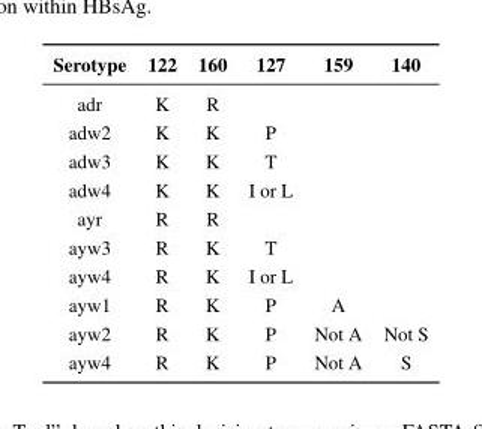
<table><thead><tr><td>Serotype</td><td>122</td><td>160</td><td>127</td><td>159</td><td>140</td></tr></thead><tbody><tr><td>adr</td><td>K</td><td>R</td><td></td><td></td><td></td></tr><tr><td>adw2</td><td>K</td><td>K</td><td>P</td><td></td><td></td></tr><tr><td>adw3</td><td>K</td><td>K</td><td>T</td><td></td><td></td></tr><tr><td>adw4</td><td>K</td><td>K</td><td>I or L</td><td></td><td></td></tr><tr><td>ayr</td><td>R</td><td>R</td><td></td><td></td><td></td></tr><tr><td>ayw3</td><td>R</td><td>K</td><td>T</td><td></td><td></td></tr><tr><td>ayw4</td><td>R</td><td>K</td><td>I or L</td><td></td><td></td></tr><tr><td>ayw1</td><td>R</td><td>K</td><td>P</td><td>A</td><td></td></tr><tr><td>ayw2</td><td>R</td><td>K</td><td>P</td><td>Not A</td><td>Not S</td></tr><tr><td>ayw4</td><td>R</td><td>K</td><td>P</td><td>Not A</td><td>S</td></tr></tbody></table>